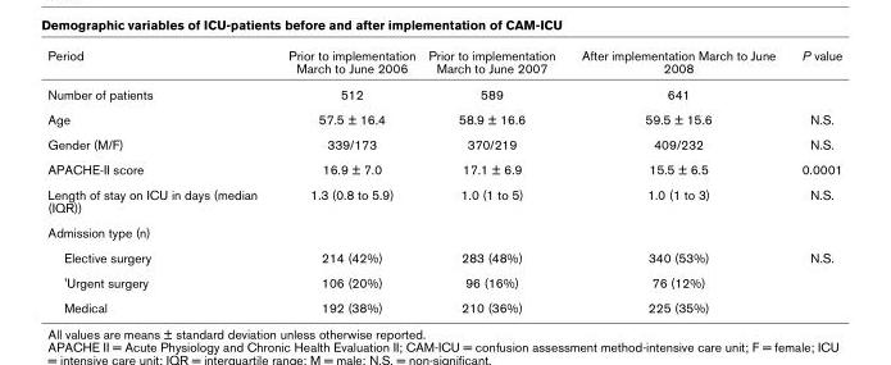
<table><thead><tr><td>Period</td><td>Prior to implementation March to June 2006</td><td>Prior to implementation March to June 2007</td><td>After implementation March to June 2008</td><td>P value</td></tr></thead><tbody><tr><td>Number of patients</td><td>512</td><td>589</td><td>641</td><td></td></tr><tr><td>Age</td><td>57.5 ± 16.4</td><td>58.9 ± 16.6</td><td>59.5 ± 15.6</td><td>N.S.</td></tr><tr><td>Gender (M/F)</td><td>339/173</td><td>370/219</td><td>409/232</td><td>N.S.</td></tr><tr><td>APACHE-II score</td><td>16.9 ± 7.0</td><td>17.1 ± 6.9</td><td>15.5 ± 6.5</td><td>0.0001</td></tr><tr><td>Length of stay on ICU in days (median (IQR))</td><td>1.3 (0.8 to 5.9)</td><td>1.0 (1 to 5)</td><td>1.0 (1 to 3)</td><td>N.S.</td></tr><tr><td colspan="5">Admission type (n)</td></tr><tr><td>Elective surgery</td><td>214 (42%)</td><td>283 (48%)</td><td>340 (53%)</td><td>N.S.</td></tr><tr><td>&#x27;Urgent surgery</td><td>106 (20%)</td><td>96 (16%)</td><td>76 (12%)</td><td></td></tr><tr><td>Medical</td><td>192 (38%)</td><td>210 (36%)</td><td>225 (35%)</td><td></td></tr></tbody></table>